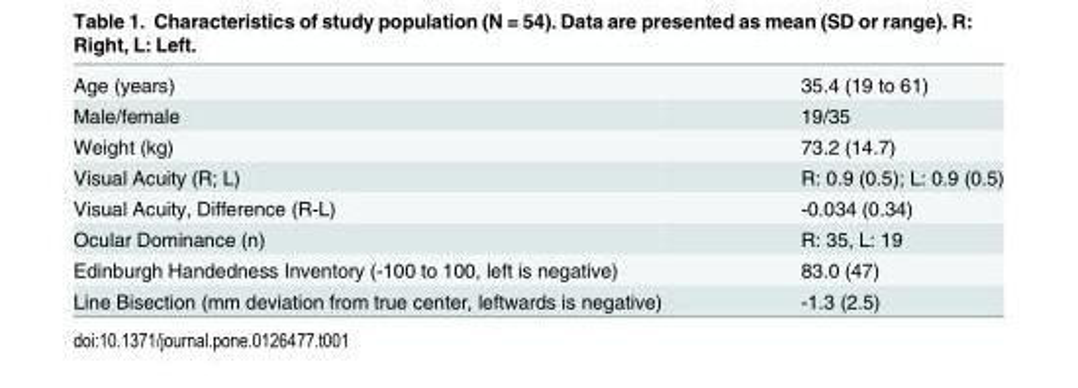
<table><tbody><tr><td>Age (years)</td><td>35.4 (19 to 61)</td></tr><tr><td>Male/female</td><td>19/35</td></tr><tr><td>Weight (kg)</td><td>73.2 (14.7)</td></tr><tr><td>Visual Acuity (R; L)</td><td>R: 0.9 (0.5); L: 0.9 (0.5)</td></tr><tr><td>Visual Acuity, Difference (R-L)</td><td>-0.034 (0.34)</td></tr><tr><td>Ocular Dominance (n)</td><td>R: 35, L: 19</td></tr><tr><td>Edinburgh Handedness Inventory (-100 to 100, left is negative)</td><td>83.0 (47)</td></tr><tr><td>Line Bisection (mm deviation from true center, leftwards is negative)</td><td>-1.3 (2.5)</td></tr></tbody></table>